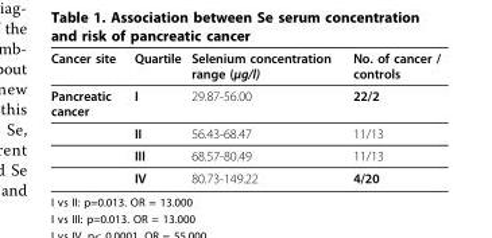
<table><thead><tr><td>Cancer site</td><td>Quartile</td><td>Selenium concentration range (µg/l)</td><td>No. of cancer / controls</td></tr></thead><tbody><tr><td rowspan="4">Pancreatic cancer</td><td>I</td><td>29.87-56.00</td><td>22/2</td></tr><tr><td>II</td><td>56.43-68.47</td><td>11/13</td></tr><tr><td>III</td><td>68.57-80.49</td><td>11/13</td></tr><tr><td>IV</td><td>80.73-149.22</td><td>4/20</td></tr></tbody></table>